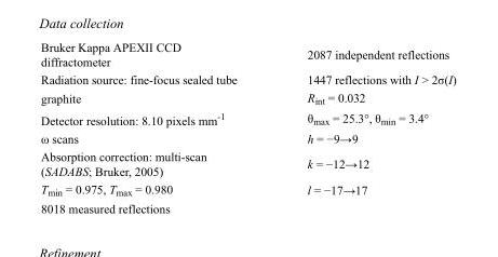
<table><tbody><tr><td>Bruker Kappa APEXII CCD diffractometer</td><td>2087 independent reflections</td></tr><tr><td>Radiation source: fine-focus sealed tube</td><td>1447 reflections with I &gt; 2σ(I)</td></tr><tr><td>graphite</td><td>R<sub>int</sub> = 0.032</td></tr><tr><td>Detector resolution: 8.10 pixels mm<sup>-1</sup></td><td>θ<sub>max</sub> = 25.3°, θ<sub>min</sub> = 3.4°</td></tr><tr><td>ω scans</td><td>h = −9→9</td></tr><tr><td>Absorption correction: multi-scan (SADABS; Bruker, 2005)</td><td>k = −12→12</td></tr><tr><td>T<sub>min</sub> = 0.975, T<sub>max</sub> = 0.980</td><td>l = −17→17</td></tr><tr><td>8018 measured reflections</td><td></td></tr></tbody></table>